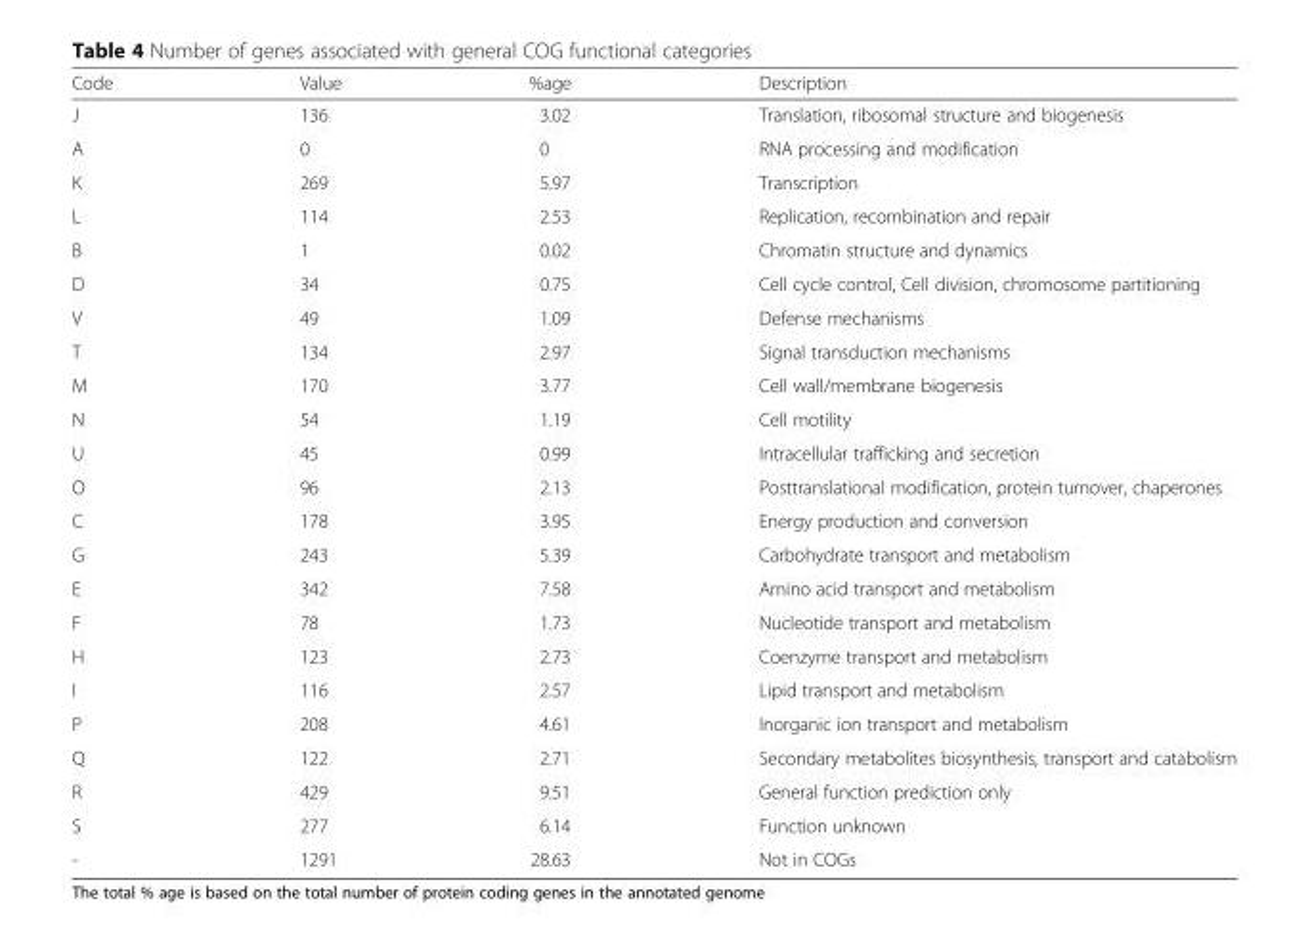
<table><thead><tr><td>Code</td><td>Value</td><td>%age</td><td>Description</td></tr></thead><tbody><tr><td>J</td><td>136</td><td>3.02</td><td>Translation, ribosomal structure and biogenesis</td></tr><tr><td>A</td><td>0</td><td>0</td><td>RNA processing and modification</td></tr><tr><td>K</td><td>269</td><td>5.97</td><td>Transcription</td></tr><tr><td>L</td><td>114</td><td>2.53</td><td>Replication, recombination and repair</td></tr><tr><td>B</td><td>1</td><td>0.02</td><td>Chromatin structure and dynamics</td></tr><tr><td>D</td><td>34</td><td>0.75</td><td>Cell cycle control, Cell division, chromosome partitioning</td></tr><tr><td>V</td><td>49</td><td>1.09</td><td>Defense mechanisms</td></tr><tr><td>T</td><td>134</td><td>2.97</td><td>Signal transduction mechanisms</td></tr><tr><td>M</td><td>170</td><td>3.77</td><td>Cell wall/membrane biogenesis</td></tr><tr><td>N</td><td>54</td><td>1.19</td><td>Cell motility</td></tr><tr><td>U</td><td>45</td><td>0.99</td><td>Intracellular trafficking and secretion</td></tr><tr><td>O</td><td>96</td><td>2.13</td><td>Posttranslational modification, protein turnover, chaperones</td></tr><tr><td>C</td><td>178</td><td>3.95</td><td>Energy production and conversion</td></tr><tr><td>G</td><td>243</td><td>5.39</td><td>Carbohydrate transport and metabolism</td></tr><tr><td>E</td><td>342</td><td>7.58</td><td>Amino acid transport and metabolism</td></tr><tr><td>F</td><td>78</td><td>1.73</td><td>Nucleotide transport and metabolism</td></tr><tr><td>H</td><td>123</td><td>2.73</td><td>Coenzyme transport and metabolism</td></tr><tr><td>I</td><td>116</td><td>2.57</td><td>Lipid transport and metabolism</td></tr><tr><td>P</td><td>208</td><td>4.61</td><td>Inorganic ion transport and metabolism</td></tr><tr><td>Q</td><td>122</td><td>2.71</td><td>Secondary metabolites biosynthesis, transport and catabolism</td></tr><tr><td>R</td><td>429</td><td>9.51</td><td>General function prediction only</td></tr><tr><td>S</td><td>277</td><td>6.14</td><td>Function unknown</td></tr><tr><td>-</td><td>1291</td><td>28.63</td><td>Not in COGs</td></tr></tbody></table>